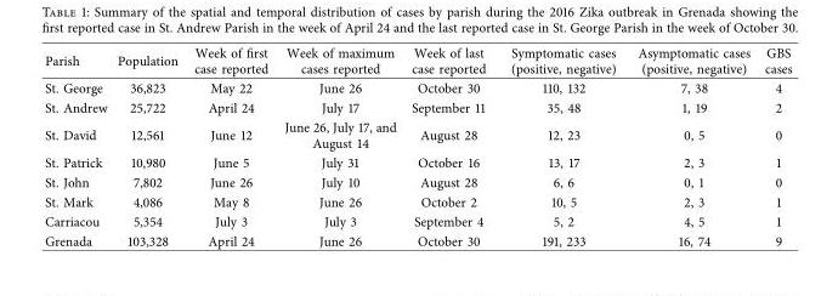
<table><thead><tr><td>Parish</td><td>Population</td><td>Week of frst case reported</td><td>Week of maximum cases reported</td><td>Week of last case reported</td><td>Symptomatic cases (positive, negative)</td><td>Asymptomatic cases (positive, negative)</td><td>GBS cases</td></tr></thead><tbody><tr><td>St. George</td><td>36,823</td><td>May 22</td><td>June 26</td><td>October 30</td><td>110, 132</td><td>7, 38</td><td>4</td></tr><tr><td>St. Andrew</td><td>25,722</td><td>April 24</td><td>July 17</td><td>September 11</td><td>35, 48</td><td>1, 19</td><td>2</td></tr><tr><td>St. David</td><td>12,561</td><td>June 12</td><td>June 26, July 17, and August 14</td><td>August 28</td><td>12, 23</td><td>0, 5</td><td>0</td></tr><tr><td>St. Patrick</td><td>10,980</td><td>June 5</td><td>July 31</td><td>October 16</td><td>13, 17</td><td>2, 3</td><td>1</td></tr><tr><td>St. John</td><td>7,802</td><td>June 26</td><td>July 10</td><td>August 28</td><td>6, 6</td><td>0, 1</td><td>0</td></tr><tr><td>St. Mark</td><td>4,086</td><td>May 8</td><td>June 26</td><td>October 2</td><td>10, 5</td><td>2, 3</td><td>1</td></tr><tr><td>Carriacou</td><td>5,354</td><td>July 3</td><td>July 3</td><td>September 4</td><td>5, 2</td><td>4, 5</td><td>1</td></tr><tr><td>Grenada</td><td>103,328</td><td>April 24</td><td>June 26</td><td>October 30</td><td>191, 233</td><td>16, 74</td><td>9</td></tr></tbody></table>